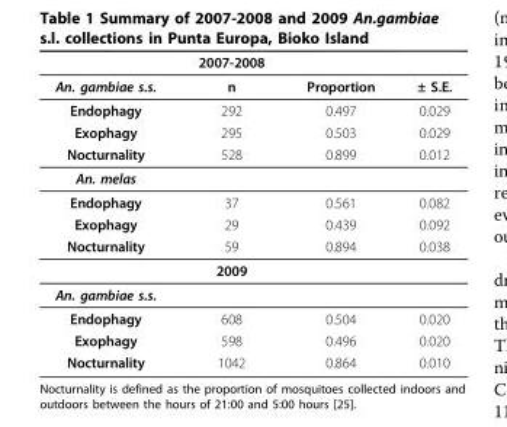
<table><thead><tr><td></td><td>2007-2008</td><td></td><td></td></tr></thead><tbody><tr><td>An. gambiae s.s.</td><td>n</td><td>Proportion</td><td>± S.E.</td></tr><tr><td>Endophagy</td><td>292</td><td>0.497</td><td>0.029</td></tr><tr><td>Exophagy</td><td>295</td><td>0.503</td><td>0.029</td></tr><tr><td>Nocturnality</td><td>528</td><td>0.899</td><td>0.012</td></tr><tr><td colspan="4">An. melas</td></tr><tr><td>Endophagy</td><td>37</td><td>0.561</td><td>0.082</td></tr><tr><td>Exophagy</td><td>29</td><td>0.439</td><td>0.092</td></tr><tr><td rowspan="2">Nocturnality</td><td>59</td><td>0.894</td><td>0.038</td></tr><tr><td>2009</td><td></td><td></td></tr><tr><td colspan="4">An. gambiae s.s.</td></tr><tr><td>Endophagy</td><td>608</td><td>0.504</td><td>0.020</td></tr><tr><td>Exophagy</td><td>598</td><td>0.496</td><td>0.020</td></tr><tr><td>Nocturnality</td><td>1042</td><td>0.864</td><td>0.010</td></tr></tbody></table>